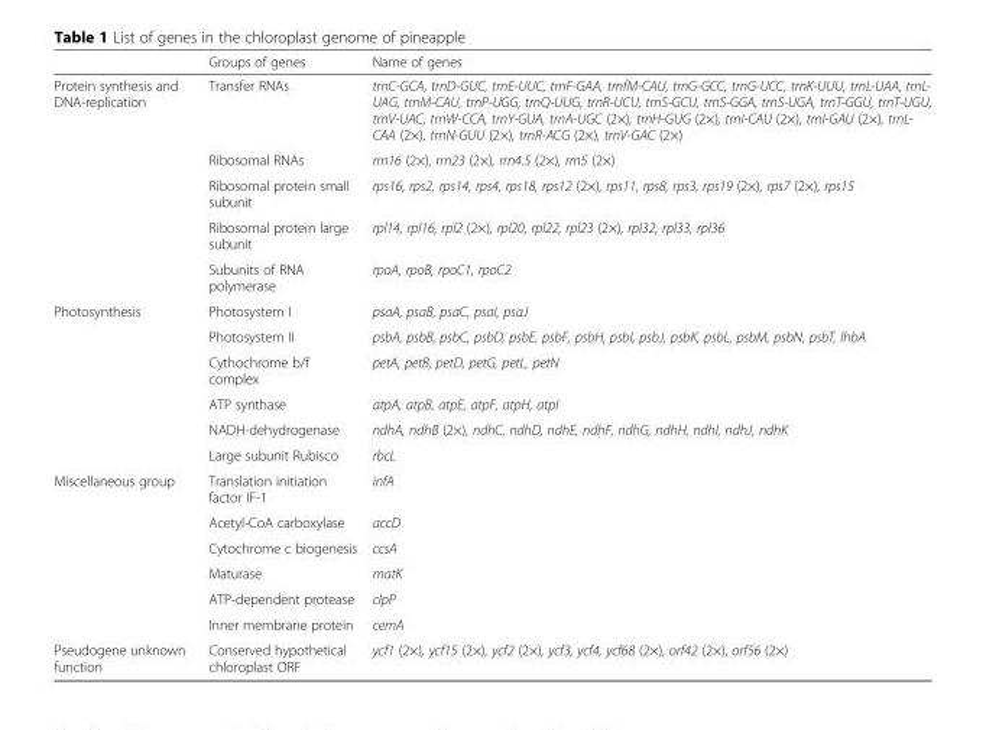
<table><thead><tr><td></td><td>Groups of genes</td><td>Name of genes</td></tr></thead><tbody><tr><td rowspan="5">Protein synthesis and DNA-replication</td><td>Transfer RNAs</td><td>trnC-GCA, trnD-GUC, trnE-UUC, trnF-GAA, trnfM-CAU, trnG-GCC, trnG-UCC, trnK-UUU, trnL-UAA, trnL- UAG, trnM-CAU, trnP-UGG, trnQ-UUG, trnR-UCU, trnS-GCU, trnS-GGA, trnS-UGA, trnT-GGU, trnT-UGU, trnV-UAC, trnW-CCA, trnY-GUA, trnA-UGC (2×), trnH-GUG (2×), trnI-CAU (2×), trnI-GAU (2×), trnL- CAA (2×), trnN-GUU (2×), trnR-ACG (2×), trnV-GAC (2×)</td></tr><tr><td>Ribosomal RNAs</td><td>rrn16 (2×), rrn23 (2×), rrn4.5 (2×), rrn5 (2×)</td></tr><tr><td>Ribosomal protein small subunit</td><td>rps16, rps2, rps14, rps4, rps18, rps12 (2×), rps11, rps8, rps3, rps19 (2×), rps7 (2×), rps15</td></tr><tr><td>Ribosomal protein large subunit</td><td>rpl14, rpl16, rpl2 (2×), rpl20, rpl22, rpl23 (2×), rpl32, rpl33, rpl36</td></tr><tr><td>Subunits of RNA polymerase</td><td>rpoA, rpoB, rpoC1, rpoC2</td></tr><tr><td rowspan="6">Photosynthesis</td><td>Photosystem I</td><td>psaA, psaB, psaC, psaI, psaJ</td></tr><tr><td>Photosystem II</td><td>psbA, psbB, psbC, psbD, psbE, psbF, psbH, psbI, psbJ, psbK, psbL, psbM, psbN, psbT, lhbA</td></tr><tr><td>Cythochrome b/f complex</td><td>petA, petB, petD, petG, petL, petN</td></tr><tr><td>ATP synthase</td><td>atpA, atpB, atpE, atpF, atpH, atpI</td></tr><tr><td>NADH-dehydrogenase</td><td>ndhA, ndhB (2×), ndhC, ndhD, ndhE, ndhF, ndhG, ndhH, ndhI, ndhJ, ndhK</td></tr><tr><td>Large subunit Rubisco</td><td>rbcL</td></tr><tr><td rowspan="6">Miscellaneous group</td><td>Translation initiation factor IF-1</td><td>infA</td></tr><tr><td>Acetyl-CoA carboxylase</td><td>accD</td></tr><tr><td>Cytochrome c biogenesis</td><td>ccsA</td></tr><tr><td>Maturase</td><td>matK</td></tr><tr><td>ATP-dependent protease</td><td>clpP</td></tr><tr><td>Inner membrane protein</td><td>cemA</td></tr><tr><td>Pseudogene unknown function</td><td>Conserved hypothetical chloroplast ORF</td><td>ycf1 (2×), ycf15 (2×), ycf2 (2×), ycf3, ycf4, ycf68 (2×), orf42 (2×), orf56 (2×)</td></tr></tbody></table>